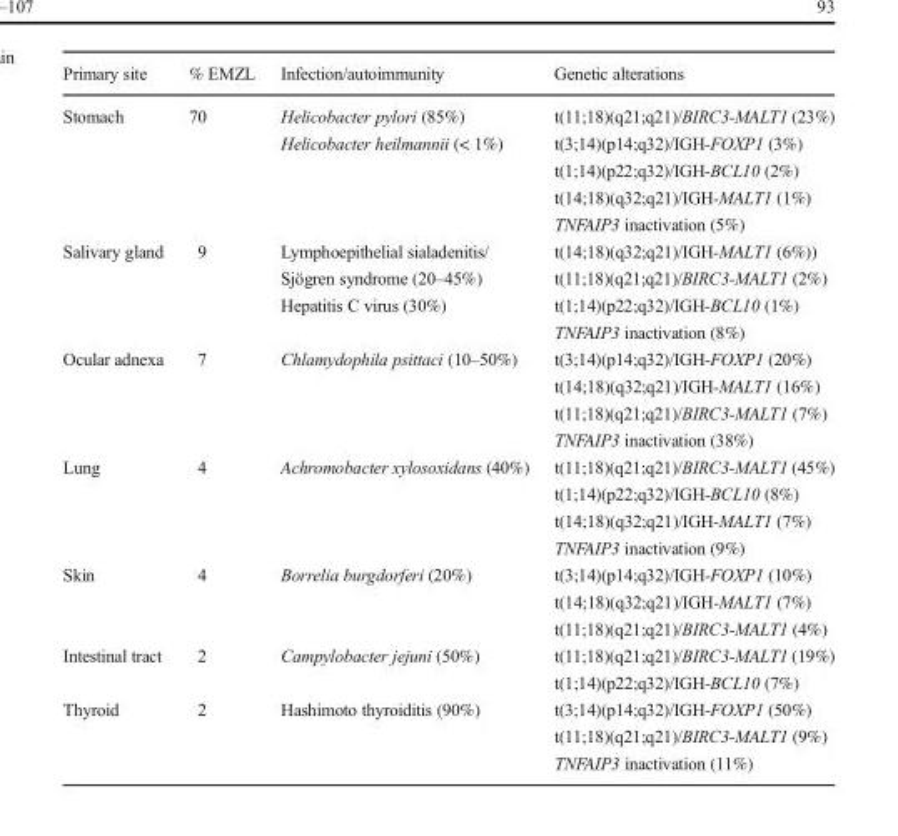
<table><thead><tr><td>Primary site</td><td>% EMZL</td><td>Infection/autoimmunity</td><td>Genetic alterations</td></tr></thead><tbody><tr><td>Stomach</td><td>70</td><td>Helicobacter pylori (85%) Helicobacter heilmannii (&lt; 1%)</td><td>t(11;18)(q21;q21)/BIRC3-MALT1 (23%) t(3;14)(p14;q32)/IGH-FOXP1 (3%) t(1;14)(p22;q32)/IGH-BCL10 (2%) t(14;18)(q32;q21)/IGH-MALT1 (1%) TNFAIP3 inactivation (5%)</td></tr><tr><td>Salivary gland</td><td>9</td><td>Lymphoepithelial sialadenitis/ Sjögren syndrome (20–45%) Hepatitis C virus (30%)</td><td>t(14;18)(q32;q21)/IGH-MALT1 (6%)) t(11;18)(q21;q21)/BIRC3-MALT1 (2%) t(1;14)(p22;q32)/IGH-BCL10 (1%) TNFAIP3 inactivation (8%)</td></tr><tr><td>Ocular adnexa</td><td>7</td><td>Chlamydophila psittaci (10–50%)</td><td>t(3;14)(p14;q32)/IGH-FOXP1 (20%) t(14;18)(q32;q21)/IGH-MALT1 (16%) t(11;18)(q21;q21)/BIRC3-MALT1 (7%) TNFAIP3 inactivation (38%)</td></tr><tr><td>Lung</td><td>4</td><td>Achromobacter xylosoxidans (40%)</td><td>t(11;18)(q21;q21)/BIRC3-MALT1 (45%) t(1;14)(p22;q32)/IGH-BCL10 (8%) t(14;18)(q32;q21)/IGH-MALT1 (7%) TNFAIP3 inactivation (9%)</td></tr><tr><td>Skin</td><td>4</td><td>Borrelia burgdorferi (20%)</td><td>t(3;14)(p14;q32)/IGH-FOXP1 (10%) t(14;18)(q32;q21)/IGH-MALT1 (7%) t(11;18)(q21;q21)/BIRC3-MALT1 (4%)</td></tr><tr><td>Intestinal tract</td><td>2</td><td>Campylobacter jejuni (50%)</td><td>t(11;18)(q21;q21)/BIRC3-MALT1 (19%) t(1;14)(p22;q32)/IGH-BCL10 (7%)</td></tr><tr><td>Thyroid</td><td>2</td><td>Hashimoto thyroiditis (90%)</td><td>t(3;14)(p14;q32)/IGH-FOXP1 (50%) t(11;18)(q21;q21)/BIRC3-MALT1 (9%) TNFAIP3 inactivation (11%)</td></tr></tbody></table>